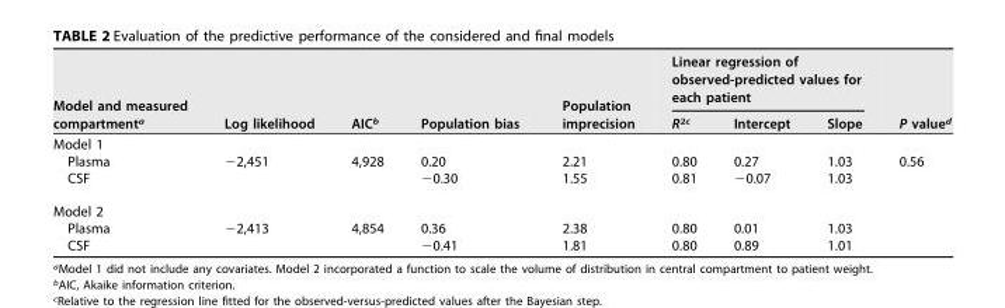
<table><thead><tr><td rowspan="2">Model and measured compartment<sup>a</sup></td><td rowspan="2">Log likelihood</td><td rowspan="2">AIC<sup>b</sup></td><td rowspan="2">Population bias</td><td rowspan="2">Population imprecision</td><td colspan="3">Linear regression of observed-predicted values for each patient</td><td rowspan="2">P value<sup>d</sup></td></tr><tr><td>R<sup>2c</sup></td><td>Intercept</td><td>Slope</td></tr></thead><tbody><tr><td colspan="9">Model 1</td></tr><tr><td>Plasma</td><td rowspan="2">−2,451</td><td rowspan="2">4,928</td><td>0.20</td><td>2.21</td><td>0.80</td><td>0.27</td><td>1.03</td><td rowspan="5">0.56</td></tr><tr><td>CSF</td><td>−0.30</td><td>1.55</td><td>0.81</td><td>−0.07</td><td>1.03</td></tr><tr><td colspan="8">Model 2</td></tr><tr><td>Plasma</td><td rowspan="2">−2,413</td><td rowspan="2">4,854</td><td>0.36</td><td>2.38</td><td>0.80</td><td>0.01</td><td>1.03</td></tr><tr><td>CSF</td><td>−0.41</td><td>1.81</td><td>0.80</td><td>0.89</td><td>1.01</td></tr></tbody></table>